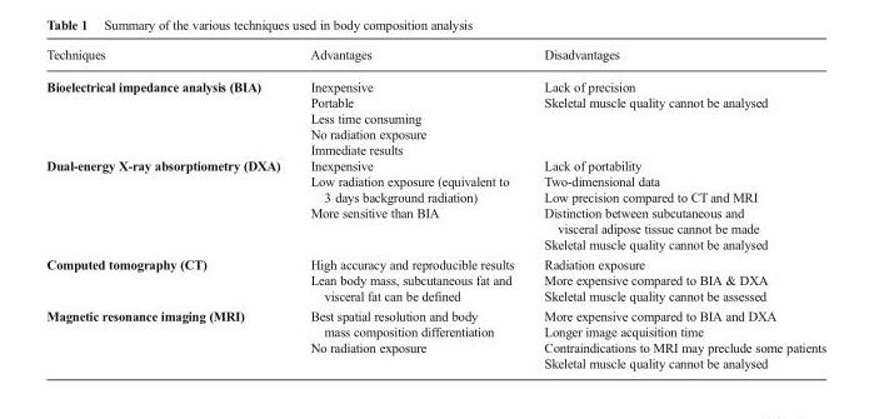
<table><thead><tr><td>Techniques</td><td>Advantages</td><td>Disadvantages</td></tr></thead><tbody><tr><td>Bioelectrical impedance analysis (BIA)</td><td>Inexpensive Portable Less time consuming No radiation exposure Immediate results</td><td>Lack of precision Skeletal muscle quality cannot be analysed</td></tr><tr><td>Dual-energy X-ray absorptiometry (DXA)</td><td>Inexpensive Low radiation exposure (equivalent to 3 days background radiation) More sensitive than BIA</td><td>Lack of portability Two-dimensional data Low precision compared to CT and MRI Distinction between subcutaneous and visceral adipose tissue cannot be made Skeletal muscle quality cannot be analysed</td></tr><tr><td>Computed tomography (CT)</td><td>High accuracy and reproducible results Lean body mass, subcutaneous fat and visceral fat can be defined</td><td>Radiation exposure More expensive compared to BIA &amp; DXA Skeletal muscle quality cannot be assessed</td></tr><tr><td>Magnetic resonance imaging (MRI)</td><td>Best spatial resolution and body mass composition differentiation No radiation exposure</td><td>More expensive compared to BIA and DXA Longer image acquisition time Contraindications to MRI may preclude some patients Skeletal muscle quality cannot be analysed</td></tr></tbody></table>